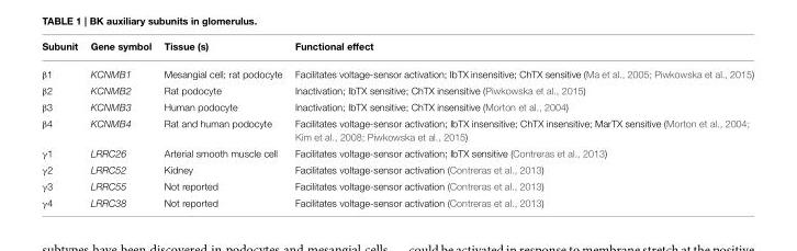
<table><thead><tr><td>Subunit</td><td>Gene symbol</td><td>Tissue (s)</td><td>Functional effect</td></tr></thead><tbody><tr><td>β1</td><td>KCNMB1</td><td>Mesangial cell; rat podocyte</td><td>Facilitates voltage-sensor activation; IbTX insensitive; ChTX sensitive (Ma et al., 2005; Piwkowska et al., 2015)</td></tr><tr><td>β2</td><td>KCNMB2</td><td>Rat podocyte</td><td>Inactivation; IbTX sensitive; ChTX insensitive (Piwkowska et al., 2015)</td></tr><tr><td>β3</td><td>KCNMB3</td><td>Human podocyte</td><td>Inactivation; IbTX sensitive; ChTX insensitive (Morton et al., 2004)</td></tr><tr><td>β4</td><td>KCNMB4</td><td>Rat and human podocyte</td><td>Facilitates voltage-sensor activation; IbTX insensitive; ChTX insensitive; MarTX sensitive (Morton et al., 2004; Kim et al., 2008; Piwkowska et al., 2015)</td></tr><tr><td>γ1</td><td>LRRC26</td><td>Arterial smooth muscle cell</td><td>Facilitates voltage-sensor activation; IbTX sensitive (Contreras et al., 2013)</td></tr><tr><td>γ2</td><td>LRRC52</td><td>Kidney</td><td>Facilitates voltage-sensor activation (Contreras et al., 2013)</td></tr><tr><td>γ3</td><td>LRRC55</td><td>Not reported</td><td>Facilitates voltage-sensor activation (Contreras et al., 2013)</td></tr><tr><td>γ4</td><td>LRRC38</td><td>Not reported</td><td>Facilitates voltage-sensor activation (Contreras et al., 2013)</td></tr></tbody></table>